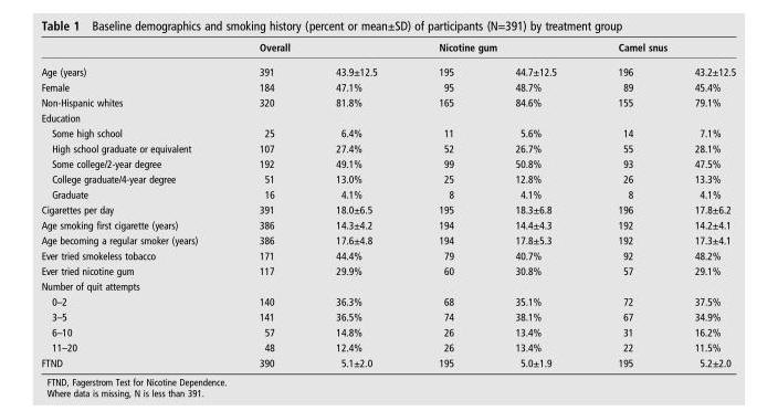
<table><thead><tr><td rowspan="2">Age (years)</td><td colspan="2">Overall</td><td colspan="2">Nicotine gum</td><td colspan="2">Camel snus</td></tr><tr><td>391</td><td>43.9±12.5</td><td>195</td><td>44.7±12.5</td><td>196</td><td>43.2±12.5</td></tr></thead><tbody><tr><td>Female</td><td>184</td><td>47.1%</td><td>95</td><td>48.7%</td><td>89</td><td>45.4%</td></tr><tr><td>Non-Hispanic whites</td><td>320</td><td>81.8%</td><td>165</td><td>84.6%</td><td>155</td><td>79.1%</td></tr><tr><td colspan="7">Education</td></tr><tr><td>Some high school</td><td>25</td><td>6.4%</td><td>11</td><td>5.6%</td><td>14</td><td>7.1%</td></tr><tr><td>High school graduate or equivalent</td><td>107</td><td>27.4%</td><td>52</td><td>26.7%</td><td>55</td><td>28.1%</td></tr><tr><td>Some college/2-year degree</td><td>192</td><td>49.1%</td><td>99</td><td>50.8%</td><td>93</td><td>47.5%</td></tr><tr><td>College graduate/4-year degree</td><td>51</td><td>13.0%</td><td>25</td><td>12.8%</td><td>26</td><td>13.3%</td></tr><tr><td>Graduate</td><td>16</td><td>4.1%</td><td>8</td><td>4.1%</td><td>8</td><td>4.1%</td></tr><tr><td>Cigarettes per day</td><td>391</td><td>18.0±6.5</td><td>195</td><td>18.3±6.8</td><td>196</td><td>17.8±6.2</td></tr><tr><td>Age smoking first cigarette (years)</td><td>386</td><td>14.3±4.2</td><td>194</td><td>14.4±4.3</td><td>192</td><td>14.2±4.1</td></tr><tr><td>Age becoming a regular smoker (years)</td><td>386</td><td>17.6±4.8</td><td>194</td><td>17.8±5.3</td><td>192</td><td>17.3±4.1</td></tr><tr><td>Ever tried smokeless tobacco</td><td>171</td><td>44.4%</td><td>79</td><td>40.7%</td><td>92</td><td>48.2%</td></tr><tr><td>Ever tried nicotine gum</td><td>117</td><td>29.9%</td><td>60</td><td>30.8%</td><td>57</td><td>29.1%</td></tr><tr><td colspan="7">Number of quit attempts</td></tr><tr><td>0–2</td><td>140</td><td>36.3%</td><td>68</td><td>35.1%</td><td>72</td><td>37.5%</td></tr><tr><td>3–5</td><td>141</td><td>36.5%</td><td>74</td><td>38.1%</td><td>67</td><td>34.9%</td></tr><tr><td>6–10</td><td>57</td><td>14.8%</td><td>26</td><td>13.4%</td><td>31</td><td>16.2%</td></tr><tr><td>11–20</td><td>48</td><td>12.4%</td><td>26</td><td>13.4%</td><td>22</td><td>11.5%</td></tr><tr><td>FTND</td><td>390</td><td>5.1±2.0</td><td>195</td><td>5.0±1.9</td><td>195</td><td>5.2±2.0</td></tr></tbody></table>